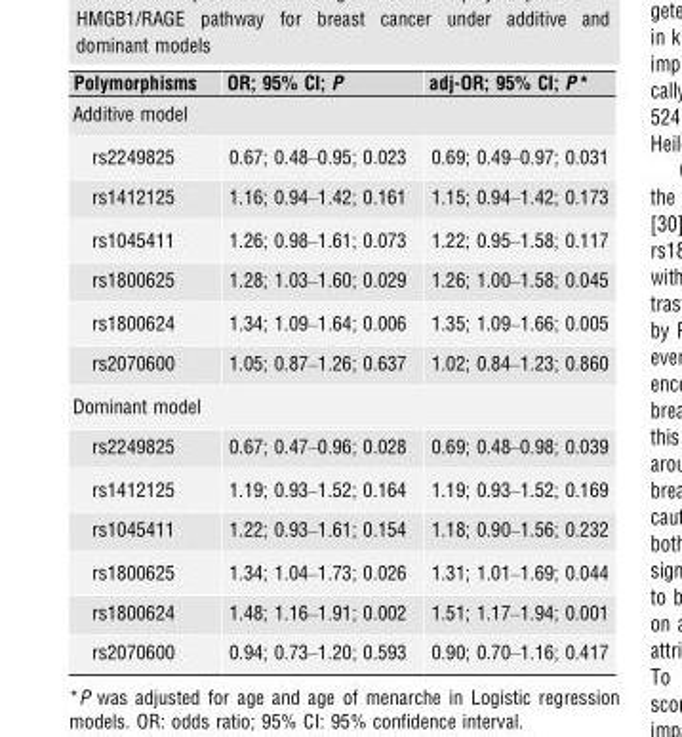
<table><thead><tr><td>Polymorphisms</td><td>OR; 95% CI; P</td><td>adj-OR; 95% CI; P *</td></tr></thead><tbody><tr><td colspan="3">Additive model</td></tr><tr><td>rs2249825</td><td>0.67; 0.48–0.95; 0.023</td><td>0.69; 0.49–0.97; 0.031</td></tr><tr><td>rs1412125</td><td>1.16; 0.94–1.42; 0.161</td><td>1.15; 0.94–1.42; 0.173</td></tr><tr><td>rs1045411</td><td>1.26; 0.98–1.61; 0.073</td><td>1.22; 0.95–1.58; 0.117</td></tr><tr><td>rs1800625</td><td>1.28; 1.03–1.60; 0.029</td><td>1.26; 1.00–1.58; 0.045</td></tr><tr><td>rs1800624</td><td>1.34; 1.09–1.64; 0.006</td><td>1.35; 1.09–1.66; 0.005</td></tr><tr><td>rs2070600</td><td>1.05; 0.87–1.26; 0.637</td><td>1.02; 0.84–1.23; 0.860</td></tr><tr><td colspan="3">Dominant model</td></tr><tr><td>rs2249825</td><td>0.67; 0.47–0.96; 0.028</td><td>0.69; 0.48–0.98; 0.039</td></tr><tr><td>rs1412125</td><td>1.19; 0.93–1.52; 0.164</td><td>1.19; 0.93–1.52; 0.169</td></tr><tr><td>rs1045411</td><td>1.22; 0.93–1.61; 0.154</td><td>1.18; 0.90–1.56; 0.232</td></tr><tr><td>rs1800625</td><td>1.34; 1.04–1.73; 0.026</td><td>1.31; 1.01–1.69; 0.044</td></tr><tr><td>rs1800624</td><td>1.48; 1.16–1.91; 0.002</td><td>1.51; 1.17–1.94; 0.001</td></tr><tr><td>rs2070600</td><td>0.94; 0.73–1.20; 0.593</td><td>0.90; 0.70–1.16; 0.417</td></tr></tbody></table>